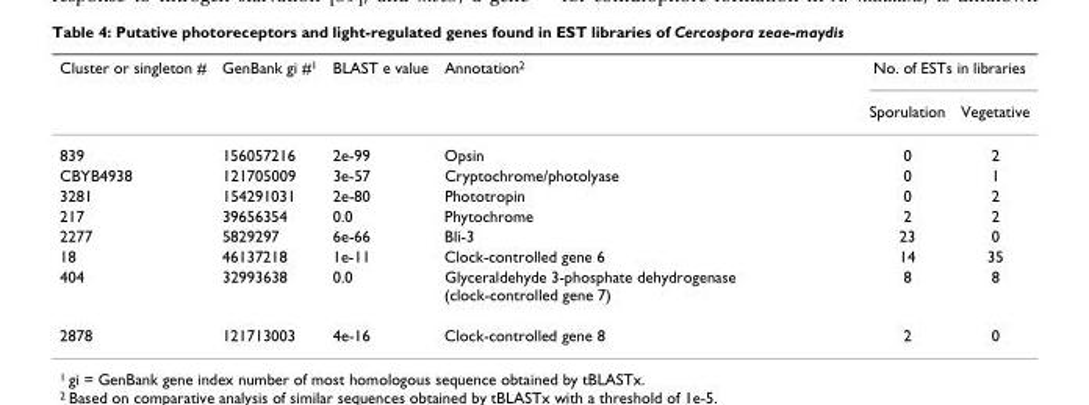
<table><thead><tr><td rowspan="2">Cluster or singleton #</td><td rowspan="2">GenBank gi #<sup>1</sup></td><td rowspan="2">BLAST e value</td><td rowspan="2">Annotation<sup>2</sup></td><td colspan="2">No. of ESTs in libraries</td></tr><tr><td>Sporulation</td><td>Vegetative</td></tr></thead><tbody><tr><td>839</td><td>156057216</td><td>2e-99</td><td>Opsin</td><td>0</td><td>2</td></tr><tr><td>CBYB4938</td><td>121705009</td><td>3e-57</td><td>Cryptochrome/photolyase</td><td>0</td><td>1</td></tr><tr><td>3281</td><td>154291031</td><td>2e-80</td><td>Phototropin</td><td>0</td><td>2</td></tr><tr><td>217</td><td>39656354</td><td>0.0</td><td>Phytochrome</td><td>2</td><td>2</td></tr><tr><td>2277</td><td>5829297</td><td>6e-66</td><td>Bli-3</td><td>23</td><td>0</td></tr><tr><td>18</td><td>46137218</td><td>1e-11</td><td>Clock-controlled gene 6</td><td>14</td><td>35</td></tr><tr><td>404</td><td>32993638</td><td>0.0</td><td>Glyceraldehyde 3-phosphate dehydrogenase (clock-controlled gene 7)</td><td>8</td><td>8</td></tr><tr><td>2878</td><td>121713003</td><td>4e-16</td><td>Clock-controlled gene 8</td><td>2</td><td>0</td></tr></tbody></table>